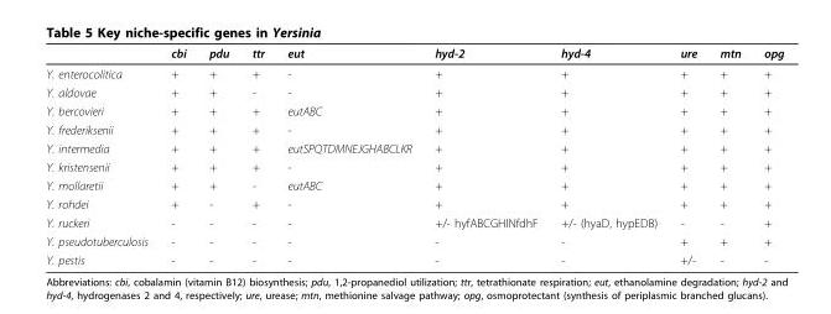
<table><thead><tr><td></td><td>cbi</td><td>pdu</td><td>ttr</td><td>eut</td><td>hyd-2</td><td>hyd-4</td><td>ure</td><td>mtn</td><td>opg</td></tr></thead><tbody><tr><td>Y. enterocolitica</td><td>+</td><td>+</td><td>+</td><td>-</td><td>+</td><td>+</td><td>+</td><td>+</td><td>+</td></tr><tr><td>Y. aldovae</td><td>+</td><td>+</td><td>-</td><td>-</td><td>+</td><td>+</td><td>+</td><td>+</td><td>+</td></tr><tr><td>Y. bercovieri</td><td>+</td><td>+</td><td>+</td><td>eutABC</td><td>+</td><td>+</td><td>+</td><td>+</td><td>+</td></tr><tr><td>Y. frederiksenii</td><td>+</td><td>+</td><td>+</td><td>-</td><td>+</td><td>+</td><td>+</td><td>+</td><td>+</td></tr><tr><td>Y. intermedia</td><td>+</td><td>+</td><td>+</td><td>eutSPQTDMNEJGHABCLKR</td><td>+</td><td>+</td><td>+</td><td>+</td><td>+</td></tr><tr><td>Y. kristensenii</td><td>+</td><td>+</td><td>+</td><td>-</td><td>+</td><td>+</td><td>+</td><td>+</td><td>+</td></tr><tr><td>Y. mollaretii</td><td>+</td><td>+</td><td>-</td><td>eutABC</td><td>+</td><td>+</td><td>+</td><td>+</td><td>+</td></tr><tr><td>Y. rohdei</td><td>+</td><td>-</td><td>+</td><td>-</td><td>+</td><td>+</td><td>+</td><td>+</td><td>+</td></tr><tr><td>Y. ruckeri</td><td>-</td><td>-</td><td>-</td><td>-</td><td>+/- hyfABCGHINfdhF</td><td>+/- (hyaD, hypEDB)</td><td>-</td><td>-</td><td>+</td></tr><tr><td>Y. pseudotuberculosis</td><td>-</td><td>-</td><td>-</td><td>-</td><td>-</td><td>-</td><td>+</td><td>+</td><td>+</td></tr><tr><td>Y. pestis</td><td>-</td><td>-</td><td>-</td><td>-</td><td>-</td><td>-</td><td>+/-</td><td>-</td><td>-</td></tr></tbody></table>